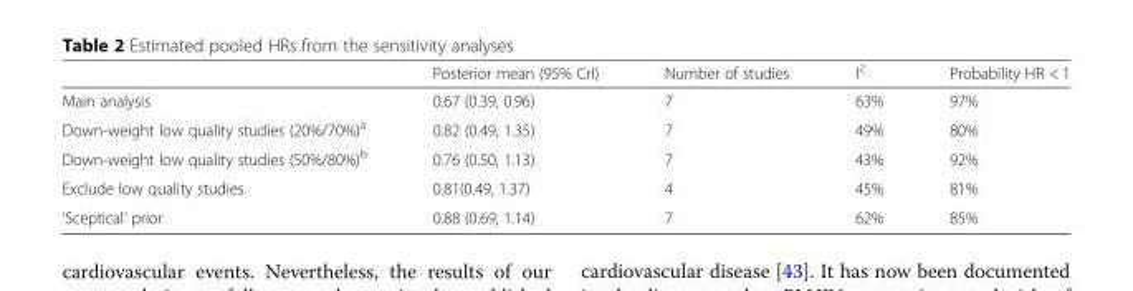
<table><thead><tr><td></td><td>Posterior mean (95% CrI)</td><td>Number of studies</td><td>I<sup>2</sup></td><td>Probability HR &lt; 1</td></tr></thead><tbody><tr><td>Main analysis</td><td>0.67 (0.39, 0.96)</td><td>7</td><td>63%</td><td>97%</td></tr><tr><td>Down-weight low quality studies (20%/70%)<sup>a</sup></td><td>0.82 (0.49, 1.35)</td><td>7</td><td>49%</td><td>80%</td></tr><tr><td>Down-weight low quality studies (50%/80%)<sup>b</sup></td><td>0.76 (0.50, 1.13)</td><td>7</td><td>43%</td><td>92%</td></tr><tr><td>Exclude low quality studies</td><td>0.81(0.49, 1.37)</td><td>4</td><td>45%</td><td>81%</td></tr><tr><td>‘Sceptical’ prior</td><td>0.88 (0.69, 1.14)</td><td>7</td><td>62%</td><td>85%</td></tr></tbody></table>